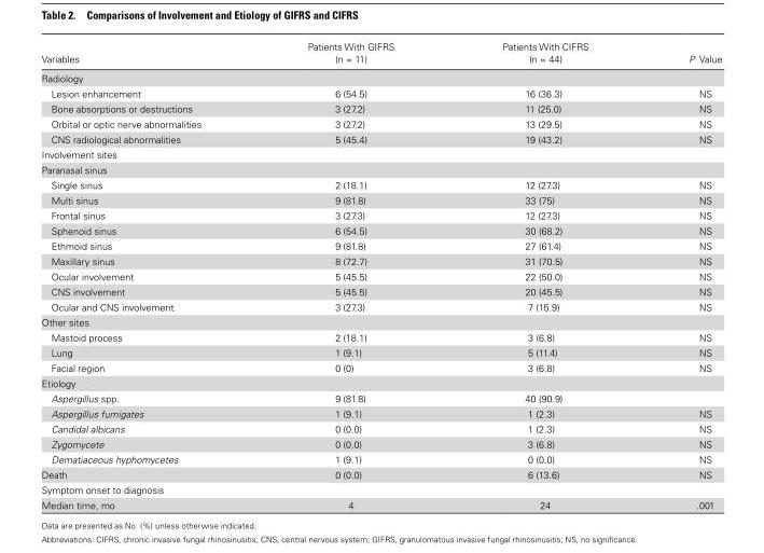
<table><thead><tr><td>Variables</td><td>Patients With GIFRS (n = 11)</td><td>Patients With CIFRS (n = 44)</td><td>P Value</td></tr></thead><tbody><tr><td colspan="4">Radiology</td></tr><tr><td>Lesion enhancement</td><td>6 (54.5)</td><td>16 (36.3)</td><td>NS</td></tr><tr><td>Bone absorptions or destructions</td><td>3 (27.2)</td><td>11 (25.0)</td><td>NS</td></tr><tr><td>Orbital or optic nerve abnormalities</td><td>3 (27.2)</td><td>13 (29.5)</td><td>NS</td></tr><tr><td>CNS radiological abnormalities</td><td>5 (45.4)</td><td>19 (43.2)</td><td>NS</td></tr><tr><td colspan="4">Involvement sites</td></tr><tr><td colspan="4">Paranasal sinus</td></tr><tr><td>Single sinus</td><td>2 (18.1)</td><td>12 (27.3)</td><td>NS</td></tr><tr><td>Multi sinus</td><td>9 (81.8)</td><td>33 (75)</td><td>NS</td></tr><tr><td>Frontal sinus</td><td>3 (27.3)</td><td>12 (27.3)</td><td>NS</td></tr><tr><td>Sphenoid sinus</td><td>6 (54.5)</td><td>30 (68.2)</td><td>NS</td></tr><tr><td>Ethmoid sinus</td><td>9 (81.8)</td><td>27 (61.4)</td><td>NS</td></tr><tr><td>Maxillary sinus</td><td>8 (72.7)</td><td>31 (70.5)</td><td>NS</td></tr><tr><td>Ocular involvement</td><td>5 (45.5)</td><td>22 (50.0)</td><td>NS</td></tr><tr><td>CNS involvement</td><td>5 (45.5)</td><td>20 (45.5)</td><td>NS</td></tr><tr><td>Ocular and CNS involvement</td><td>3 (27.3)</td><td>7 (15.9)</td><td>NS</td></tr><tr><td colspan="4">Other sites</td></tr><tr><td>Mastoid process</td><td>2 (18.1)</td><td>3 (6.8)</td><td>NS</td></tr><tr><td>Lung</td><td>1 (9.1)</td><td>5 (11.4)</td><td>NS</td></tr><tr><td>Facial region</td><td>0 (0)</td><td>3 (6.8)</td><td>NS</td></tr><tr><td colspan="4">Etiology</td></tr><tr><td>Aspergillus spp.</td><td>9 (81.8)</td><td>40 (90.9)</td><td></td></tr><tr><td>Aspergillus fumigates</td><td>1 (9.1)</td><td>1 (2.3)</td><td>NS</td></tr><tr><td>Candidal albicans</td><td>0 (0.0)</td><td>1 (2.3)</td><td>NS</td></tr><tr><td>Zygomycete</td><td>0 (0.0)</td><td>3 (6.8)</td><td>NS</td></tr><tr><td>Dematiaceous hyphomycetes</td><td>1 (9.1)</td><td>0 (0.0)</td><td>NS</td></tr><tr><td>Death</td><td>0 (0.0)</td><td>6 (13.6)</td><td>NS</td></tr><tr><td colspan="4">Symptom onset to diagnosis</td></tr><tr><td>Median time, mo</td><td>4</td><td>24</td><td>.001</td></tr></tbody></table>